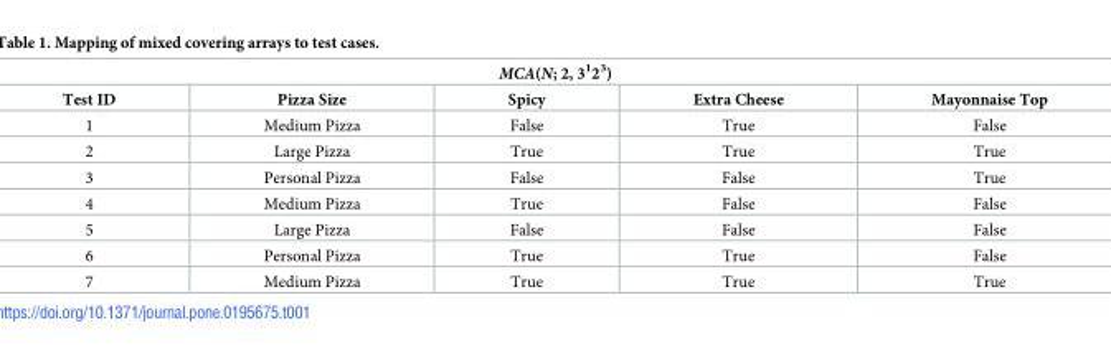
<table><thead><tr><td colspan="5">MCA(N; 2, 3<sup>1</sup>2<sup>3</sup>)</td></tr><tr><td>Test ID</td><td>Pizza Size</td><td>Spicy</td><td>Extra Cheese</td><td>Mayonnaise Top</td></tr></thead><tbody><tr><td>1</td><td>Medium Pizza</td><td>False</td><td>True</td><td>False</td></tr><tr><td>2</td><td>Large Pizza</td><td>True</td><td>True</td><td>True</td></tr><tr><td>3</td><td>Personal Pizza</td><td>False</td><td>False</td><td>True</td></tr><tr><td>4</td><td>Medium Pizza</td><td>True</td><td>False</td><td>False</td></tr><tr><td>5</td><td>Large Pizza</td><td>False</td><td>False</td><td>False</td></tr><tr><td>6</td><td>Personal Pizza</td><td>True</td><td>True</td><td>False</td></tr><tr><td>7</td><td>Medium Pizza</td><td>True</td><td>True</td><td>True</td></tr></tbody></table>